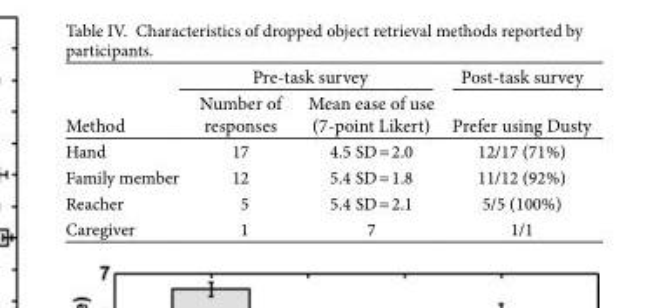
<table><thead><tr><td rowspan="2">Method</td><td colspan="2">Pre-task survey</td><td rowspan="2">Post-task survey Prefer using Dusty</td></tr><tr><td>Number of responses</td><td>Mean ease of use (7-point Likert)</td></tr></thead><tbody><tr><td>Hand</td><td>17</td><td>4.5 SD = 2.0</td><td>12/17 (71%)</td></tr><tr><td>Family member</td><td>12</td><td>5.4 SD = 1.8</td><td>11/12 (92%)</td></tr><tr><td>Reacher</td><td>5</td><td>5.4 SD = 2.1</td><td>5/5 (100%)</td></tr><tr><td>Caregiver</td><td>1</td><td>7</td><td>1/1</td></tr></tbody></table>